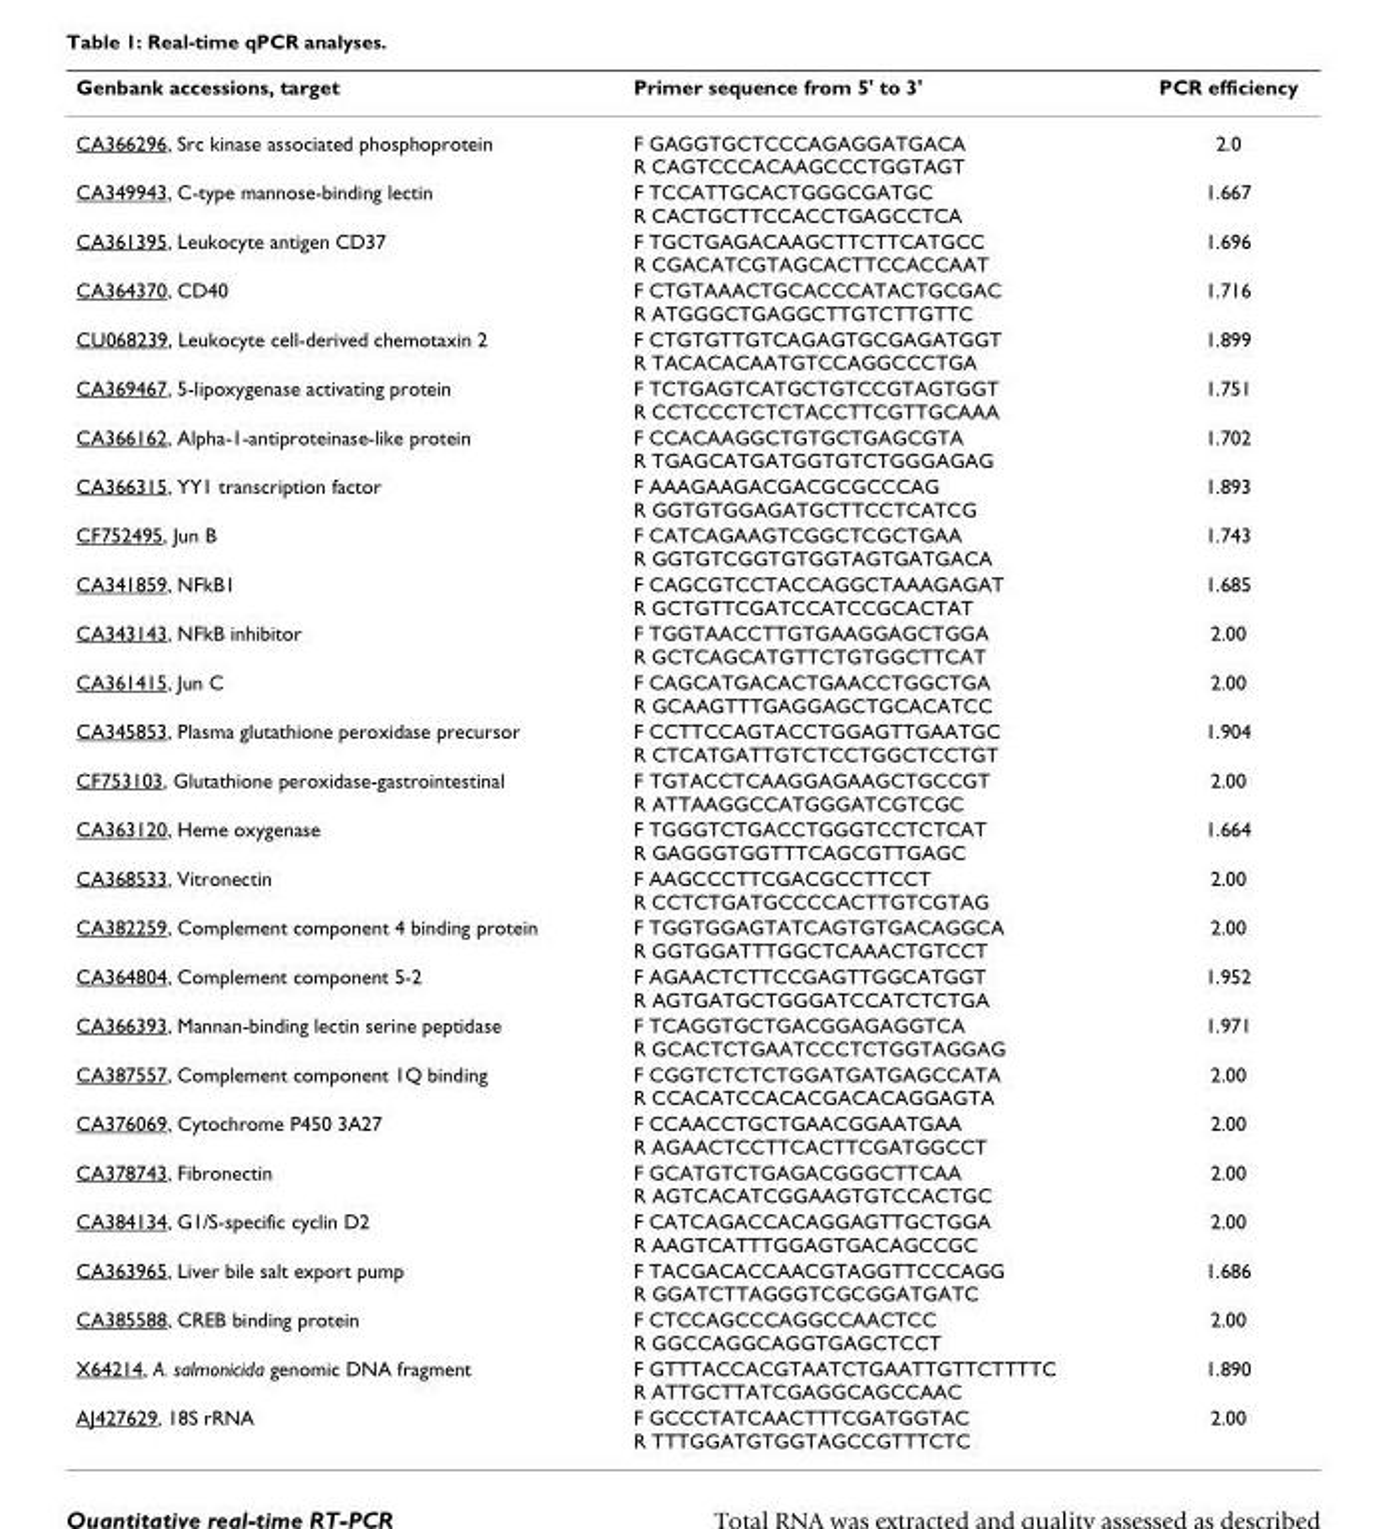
<table><thead><tr><td>Genbank accessions, target</td><td>Primer sequence from 5&#x27; to 3&#x27;</td><td>PCR efficiency</td></tr></thead><tbody><tr><td>CA366296, Src kinase associated phosphoprotein</td><td>F GAGGTGCTCCCAGAGGATGACA R CAGTCCCACAAGCCCTGGTAGT</td><td>2.0</td></tr><tr><td>CA349943, C-type mannose-binding lectin</td><td>F TCCATTGCACTGGGCGATGC R CACTGCTTCCACCTGAGCCTCA</td><td>1.667</td></tr><tr><td>CA361395, Leukocyte antigen CD37</td><td>F TGCTGAGACAAGCTTCTTCATGCC R CGACATCGTAGCACTTCCACCAAT</td><td>1.696</td></tr><tr><td>CA364370, CD40</td><td>F CTGTAAACTGCACCCATACTGCGAC R ATGGGCTGAGGCTTGTCTTGTTC</td><td>1.716</td></tr><tr><td>CU068239, Leukocyte cell-derived chemotaxin 2</td><td>F CTGTGTTGTCAGAGTGCGAGATGGT R TACACACAATGTCCAGGCCCTGA</td><td>1.899</td></tr><tr><td>CA369467, 5-lipoxygenase activating protein</td><td>F TCTGAGTCATGCTGTCCGTAGTGGT R CCTCCCTCTCTACCTTCGTTGCAAA</td><td>1.751</td></tr><tr><td>CA366162, Alpha-1-antiproteinase-like protein</td><td>F CCACAAGGCTGTGCTGAGCGTA R TGAGCATGATGGTGTCTGGGAGAG</td><td>1.702</td></tr><tr><td>CA366315, YY1 transcription factor</td><td>F AAAGAAGACGACGCGCCCAG R GGTGTGGAGATGCTTCCTCATCG</td><td>1.893</td></tr><tr><td>CF752495, Jun B</td><td>F CATCAGAAGTCGGCTCGCTGAA R GGTGTCGGTGTGGTAGTGATGACA</td><td>1.743</td></tr><tr><td>CA341859, NFkB1</td><td>F CAGCGTCCTACCAGGCTAAAGAGAT R GCTGTTCGATCCATCCGCACTAT</td><td>1.685</td></tr><tr><td>CA343143, NFkB inhibitor</td><td>F TGGTAACCTTGTGAAGGAGCTGGA R GCTCAGCATGTTCTGTGGCTTCAT</td><td>2.00</td></tr><tr><td>CA361415, Jun C</td><td>F CAGCATGACACTGAACCTGGCTGA R GCAAGTTTGAGGAGCTGCACATCC</td><td>2.00</td></tr><tr><td>CA345853, Plasma glutathione peroxidase precursor</td><td>F CCTTCCAGTACCTGGAGTTGAATGC R CTCATGATTGTCTCCTGGCTCCTGT</td><td>1.904</td></tr><tr><td>CF753103, Glutathione peroxidase-gastrointestinal</td><td>F TGTACCTCAAGGAGAAGCTGCCGT R ATTAAGGCCATGGGATCGTCGC</td><td>2.00</td></tr><tr><td>CA363120, Heme oxygenase</td><td>F TGGGTCTGACCTGGGTCCTCTCAT R GAGGGTGGTTTCAGCGTTGAGC</td><td>1.664</td></tr><tr><td>CA368533, Vitronectin</td><td>F AAGCCCTTCGACGCCTTCCT R CCTCTGATGCCCCACTTGTCGTAG</td><td>2.00</td></tr><tr><td>CA382259, Complement component 4 binding protein</td><td>F TGGTGGAGTATCAGTGTGACAGGCA R GGTGGATTTGGCTCAAACTGTCCT</td><td>2.00</td></tr><tr><td>CA364804, Complement component 5-2</td><td>F AGAACTCTTCCGAGTTGGCATGGT R AGTGATGCTGGGATCCATCTCTGA</td><td>1.952</td></tr><tr><td>CA366393, Mannan-binding lectin serine peptidase</td><td>F TCAGGTGCTGACGGAGAGGTCA R GCACTCTGAATCCCTCTGGTAGGAG</td><td>1.971</td></tr><tr><td>CA387557, Complement component 1Q binding</td><td>F CGGTCTCTCTGGATGATGAGCCATA R CCACATCCACACGACACAGGAGTA</td><td>2.00</td></tr><tr><td>CA376069, Cytochrome P450 3A27</td><td>F CCAACCTGCTGAACGGAATGAA R AGAACTCCTTCACTTCGATGGCCT</td><td>2.00</td></tr><tr><td>CA378743, Fibronectin</td><td>F GCATGTCTGAGACGGGCTTCAA R AGTCACATCGGAAGTGTCCACTGC</td><td>2.00</td></tr><tr><td>CA384134, G1/S-specific cyclin D2</td><td>F CATCAGACCACAGGAGTTGCTGGA R AAGTCATTTGGAGTGACAGCCGC</td><td>2.00</td></tr><tr><td>CA363965, Liver bile salt export pump</td><td>F TACGACACCAACGTAGGTTCCCAGG R GGATCTTAGGGTCGCGGATGATC</td><td>1.686</td></tr><tr><td>CA385588, CREB binding protein</td><td>F CTCCAGCCCAGGCCAACTCC R GGCCAGGCAGGTGAGCTCCT</td><td>2.00</td></tr><tr><td>X64214, A. salmonicida genomic DNA fragment</td><td>F GTTTACCACGTAATCTGAATTGTTCTTTTC R ATTGCTTATCGAGGCAGCCAAC</td><td>1.890</td></tr><tr><td>AJ427629, 18S rRNA</td><td>F GCCCTATCAACTTTCGATGGTAC R TTTGGATGTGGTAGCCGTTTCTC</td><td>2.00</td></tr></tbody></table>